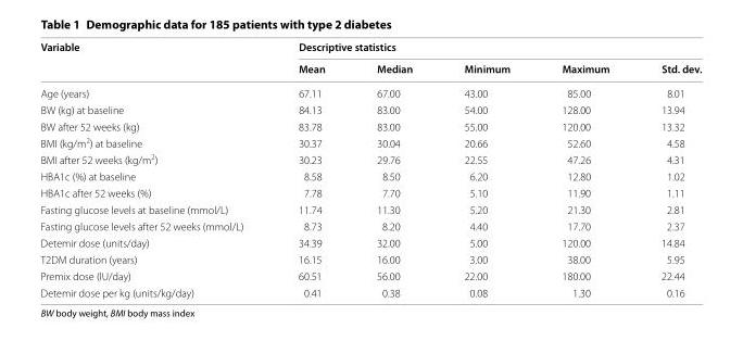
<table><thead><tr><td rowspan="2">Variable</td><td colspan="5">Descriptive statistics</td></tr><tr><td>Mean</td><td>Median</td><td>Minimum</td><td>Maximum</td><td>Std. dev.</td></tr></thead><tbody><tr><td>Age (years)</td><td>67.11</td><td>67.00</td><td>43.00</td><td>85.00</td><td>8.01</td></tr><tr><td>BW (kg) at baseline</td><td>84.13</td><td>83.00</td><td>54.00</td><td>128.00</td><td>13.94</td></tr><tr><td>BW after 52 weeks (kg)</td><td>83.78</td><td>83.00</td><td>55.00</td><td>120.00</td><td>13.32</td></tr><tr><td>BMI (kg/m<sup>2</sup>) at baseline</td><td>30.37</td><td>30.04</td><td>20.66</td><td>52.60</td><td>4.58</td></tr><tr><td>BMI after 52 weeks (kg/m<sup>2</sup>)</td><td>30.23</td><td>29.76</td><td>22.55</td><td>47.26</td><td>4.31</td></tr><tr><td>HBA1c (%) at baseline</td><td>8.58</td><td>8.50</td><td>6.20</td><td>12.80</td><td>1.02</td></tr><tr><td>HBA1c after 52 weeks (%)</td><td>7.78</td><td>7.70</td><td>5.10</td><td>11.90</td><td>1.11</td></tr><tr><td>Fasting glucose levels at baseline (mmol/L)</td><td>11.74</td><td>11.30</td><td>5.20</td><td>21.30</td><td>2.81</td></tr><tr><td>Fasting glucose levels after 52 weeks (mmol/L)</td><td>8.73</td><td>8.20</td><td>4.40</td><td>17.70</td><td>2.37</td></tr><tr><td>Detemir dose (units/day)</td><td>34.39</td><td>32.00</td><td>5.00</td><td>120.00</td><td>14.84</td></tr><tr><td>T2DM duration (years)</td><td>16.15</td><td>16.00</td><td>3.00</td><td>38.00</td><td>5.95</td></tr><tr><td>Premix dose (IU/day)</td><td>60.51</td><td>56.00</td><td>22.00</td><td>180.00</td><td>22.44</td></tr><tr><td>Detemir dose per kg (units/kg/day)</td><td>0.41</td><td>0.38</td><td>0.08</td><td>1.30</td><td>0.16</td></tr></tbody></table>